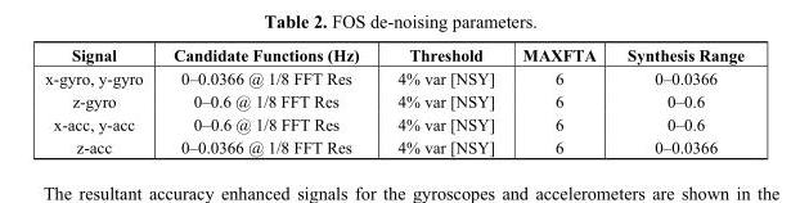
<table><thead><tr><td>Signal</td><td>Candidate Functions (Hz)</td><td>Threshold</td><td>MAXFTA</td><td>Synthesis Range</td></tr></thead><tbody><tr><td>x-gyro, y-gyro</td><td>0–0.0366 @ 1/8 FFT Res</td><td>4% var [NSY]</td><td>6</td><td>0–0.0366</td></tr><tr><td>z-gyro</td><td>0–0.6 @ 1/8 FFT Res</td><td>4% var [NSY]</td><td>6</td><td>0–0.6</td></tr><tr><td>x-acc, y-acc</td><td>0–0.6 @ 1/8 FFT Res</td><td>4% var [NSY]</td><td>6</td><td>0–0.6</td></tr><tr><td>z-acc</td><td>0–0.0366 @ 1/8 FFT Res</td><td>4% var [NSY]</td><td>6</td><td>0–0.0366</td></tr></tbody></table>